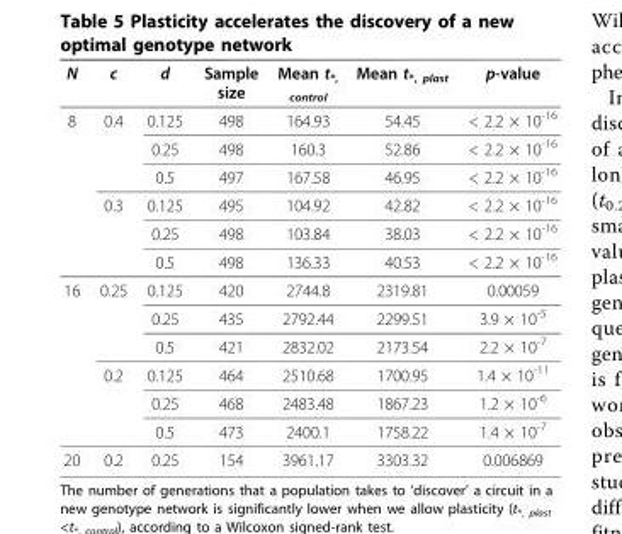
<table><thead><tr><td>N</td><td>c</td><td>d</td><td>Sample size</td><td>Mean t<sub>*, control</sub></td><td>Mean t<sub>*, plast</sub></td><td>p-value</td></tr></thead><tbody><tr><td rowspan="6">8</td><td>0.4</td><td>0.125</td><td>498</td><td>164.93</td><td>54.45</td><td>&lt; 2.2 × 10<sup>-16</sup></td></tr><tr><td></td><td>0.25</td><td>498</td><td>160.3</td><td>52.86</td><td>&lt; 2.2 × 10<sup>-16</sup></td></tr><tr><td></td><td>0.5</td><td>497</td><td>167.58</td><td>46.95</td><td>&lt; 2.2 × 10<sup>-16</sup></td></tr><tr><td>0.3</td><td>0.125</td><td>495</td><td>104.92</td><td>42.82</td><td>&lt; 2.2 × 10<sup>-16</sup></td></tr><tr><td></td><td>0.25</td><td>498</td><td>103.84</td><td>38.03</td><td>&lt; 2.2 × 10<sup>-16</sup></td></tr><tr><td></td><td>0.5</td><td>498</td><td>136.33</td><td>40.53</td><td>&lt; 2.2 × 10<sup>-16</sup></td></tr><tr><td rowspan="6">16</td><td>0.25</td><td>0.125</td><td>420</td><td>2744.8</td><td>2319.81</td><td>0.00059</td></tr><tr><td></td><td>0.25</td><td>435</td><td>2792.44</td><td>2299.51</td><td>3.9 × 10<sup>-5</sup></td></tr><tr><td></td><td>0.5</td><td>421</td><td>2832.02</td><td>2173.54</td><td>2.2 × 10<sup>-7</sup></td></tr><tr><td>0.2</td><td>0.125</td><td>464</td><td>2510.68</td><td>1700.95</td><td>1.4 × 10<sup>-11</sup></td></tr><tr><td></td><td>0.25</td><td>468</td><td>2483.48</td><td>1867.23</td><td>1.2 × 10<sup>-6</sup></td></tr><tr><td></td><td>0.5</td><td>473</td><td>2400.1</td><td>1758.22</td><td>1.4 × 10<sup>-7</sup></td></tr><tr><td>20</td><td>0.2</td><td>0.25</td><td>154</td><td>3961.17</td><td>3303.32</td><td>0.006869</td></tr></tbody></table>